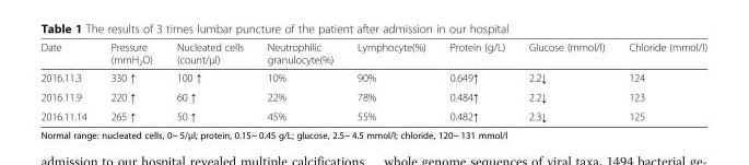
<table><thead><tr><td>Date</td><td>Pressure (mmH<sub>2</sub>O)</td><td>Nucleated cells (count/μl)</td><td>Neutrophilic granulocyte(%)</td><td>Lymphocyte(%)</td><td>Protein (g/L)</td><td>Glucose (mmol/l)</td><td>Chloride (mmol/l)</td></tr></thead><tbody><tr><td>2016.11.3</td><td>330 ↑</td><td>100 ↑</td><td>10%</td><td>90%</td><td>0.649↑</td><td>2.2↓</td><td>124</td></tr><tr><td>2016.11.9</td><td>220 ↑</td><td>60 ↑</td><td>22%</td><td>78%</td><td>0.484↑</td><td>2.2↓</td><td>123</td></tr><tr><td>2016.11.14</td><td>265 ↑</td><td>50 ↑</td><td>45%</td><td>55%</td><td>0.482↑</td><td>2.3↓</td><td>125</td></tr></tbody></table>